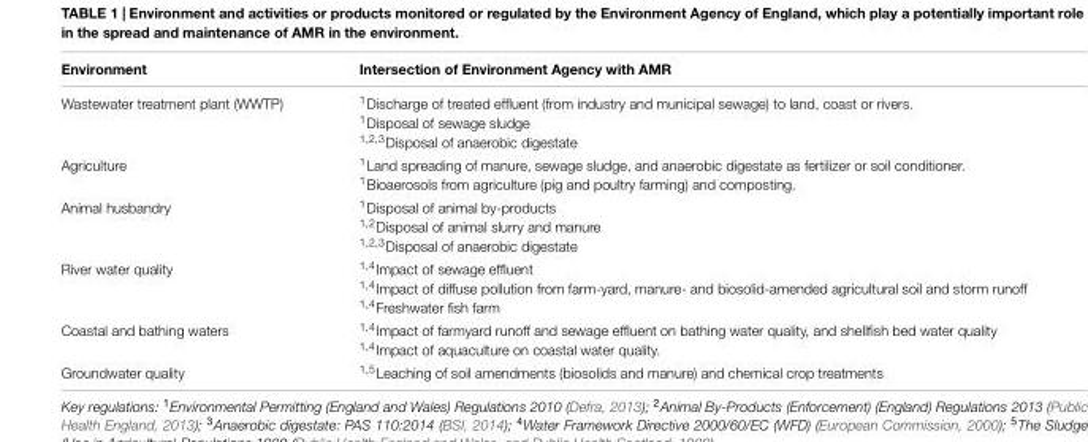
<table><thead><tr><td>Environment</td><td>Intersection of Environment Agency with AMR</td></tr></thead><tbody><tr><td>Wastewater treatment plant (WWTP)</td><td><sup>1</sup>Discharge of treated effluent (from industry and municipal sewage) to land, coast or rivers. <sup>1</sup>Disposal of sewage sludge <sup>1,2,3</sup>Disposal of anaerobic digestate</td></tr><tr><td>Agriculture</td><td><sup>1</sup>Land spreading of manure, sewage sludge, and anaerobic digestate as fertilizer or soil conditioner. <sup>1</sup>Bioaerosols from agriculture (pig and poultry farming) and composting.</td></tr><tr><td>Animal husbandry</td><td><sup>1</sup>Disposal of animal by-products <sup>1,2</sup>Disposal of animal slurry and manure <sup>1,2,3</sup>Disposal of anaerobic digestate</td></tr><tr><td>River water quality</td><td><sup>1,4</sup>Impact of sewage effluent <sup>1,4</sup>Impact of diffuse pollution from farm-yard, manure- and biosolid-amended agricultural soil and storm runoff <sup>1,4</sup>Freshwater fish farm</td></tr><tr><td>Coastal and bathing waters</td><td><sup>1,4</sup>Impact of farmyard runoff and sewage effluent on bathing water quality, and shellfish bed water quality <sup>1,4</sup>Impact of aquaculture on coastal water quality.</td></tr><tr><td>Groundwater quality</td><td><sup>1,5</sup>Leaching of soil amendments (biosolids and manure) and chemical crop treatments</td></tr></tbody></table>